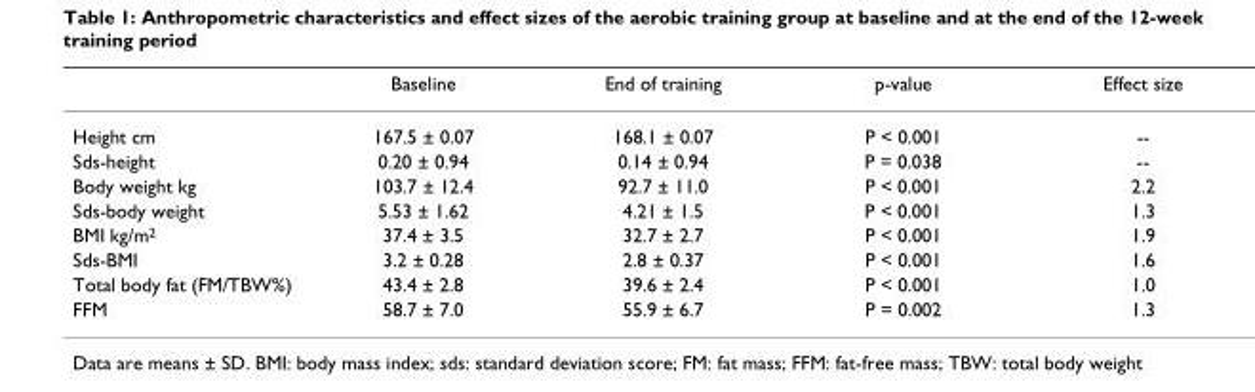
<table><thead><tr><td></td><td>Baseline</td><td>End of training</td><td>p-value</td><td>Effect size</td></tr></thead><tbody><tr><td>Height cm</td><td>167.5 ± 0.07</td><td>168.1 ± 0.07</td><td>P &lt; 0.001</td><td>--</td></tr><tr><td>Sds-height</td><td>0.20 ± 0.94</td><td>0.14 ± 0.94</td><td>P = 0.038</td><td>--</td></tr><tr><td>Body weight kg</td><td>103.7 ± 12.4</td><td>92.7 ± 11.0</td><td>P &lt; 0.001</td><td>2.2</td></tr><tr><td>Sds-body weight</td><td>5.53 ± 1.62</td><td>4.21 ± 1.5</td><td>P &lt; 0.001</td><td>1.3</td></tr><tr><td>BMI kg/m2</td><td>37.4 ± 3.5</td><td>32.7 ± 2.7</td><td>P &lt; 0.001</td><td>1.9</td></tr><tr><td>Sds-BMI</td><td>3.2 ± 0.28</td><td>2.8 ± 0.37</td><td>P &lt; 0.001</td><td>1.6</td></tr><tr><td>Total body fat (FM/TBW%)</td><td>43.4 ± 2.8</td><td>39.6 ± 2.4</td><td>P &lt; 0.001</td><td>1.0</td></tr><tr><td>FFM</td><td>58.7 ± 7.0</td><td>55.9 ± 6.7</td><td>P = 0.002</td><td>1.3</td></tr></tbody></table>